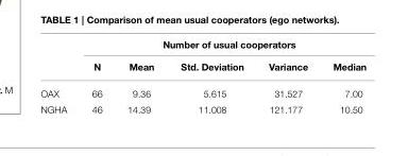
<table><thead><tr><td rowspan="2"></td><td colspan="5">Number of usual cooperators</td></tr><tr><td>N</td><td>Mean</td><td>Std. Deviation</td><td>Variance</td><td>Median</td></tr></thead><tbody><tr><td>OAX</td><td>66</td><td>9.36</td><td>5.615</td><td>31.527</td><td>7.00</td></tr><tr><td>NGHA</td><td>46</td><td>14.39</td><td>11.008</td><td>121.177</td><td>10.50</td></tr></tbody></table>